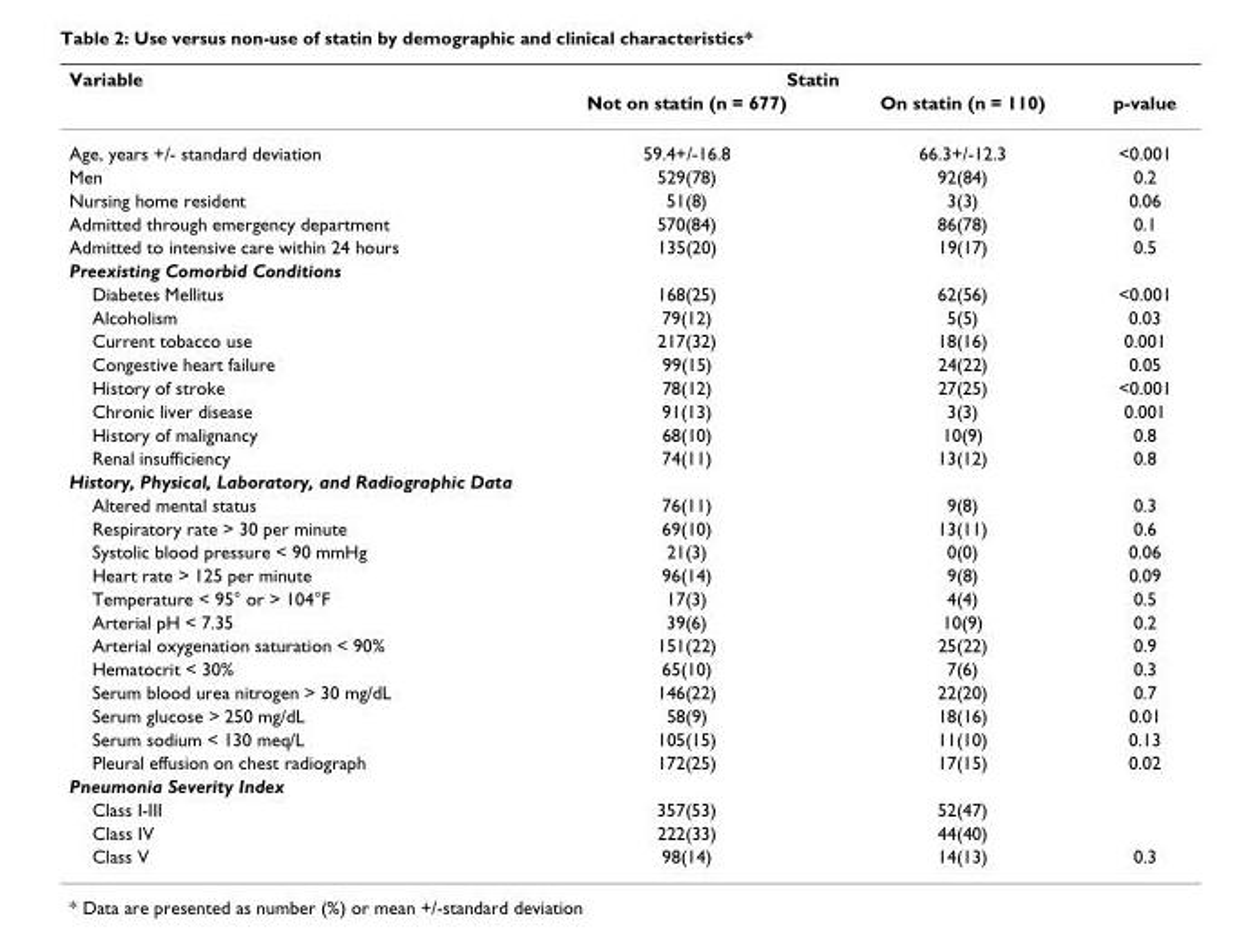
<table><thead><tr><td rowspan="2">Variable</td><td colspan="2">Statin</td><td rowspan="2">p-value</td></tr><tr><td>Not on statin (n = 677)</td><td>On statin (n = 110)</td></tr></thead><tbody><tr><td>Age, years +/- standard deviation</td><td>59.4+/-16.8</td><td>66.3+/-12.3</td><td>&lt;0.001</td></tr><tr><td>Men</td><td>529(78)</td><td>92(84)</td><td>0.2</td></tr><tr><td>Nursing home resident</td><td>51(8)</td><td>3(3)</td><td>0.06</td></tr><tr><td>Admitted through emergency department</td><td>570(84)</td><td>86(78)</td><td>0.1</td></tr><tr><td>Admitted to intensive care within 24 hours</td><td>135(20)</td><td>19(17)</td><td>0.5</td></tr><tr><td colspan="4">Preexisting Comorbid Conditions</td></tr><tr><td>Diabetes Mellitus</td><td>168(25)</td><td>62(56)</td><td>&lt;0.001</td></tr><tr><td>Alcoholism</td><td>79(12)</td><td>5(5)</td><td>0.03</td></tr><tr><td>Current tobacco use</td><td>217(32)</td><td>18(16)</td><td>0.001</td></tr><tr><td>Congestive heart failure</td><td>99(15)</td><td>24(22)</td><td>0.05</td></tr><tr><td>History of stroke</td><td>78(12)</td><td>27(25)</td><td>&lt;0.001</td></tr><tr><td>Chronic liver disease</td><td>91(13)</td><td>3(3)</td><td>0.001</td></tr><tr><td>History of malignancy</td><td>68(10)</td><td>10(9)</td><td>0.8</td></tr><tr><td>Renal insufficiency</td><td>74(11)</td><td>13(12)</td><td>0.8</td></tr><tr><td colspan="4">History, Physical, Laboratory, and Radiographic Data</td></tr><tr><td>Altered mental status</td><td>76(11)</td><td>9(8)</td><td>0.3</td></tr><tr><td>Respiratory rate &gt; 30 per minute</td><td>69(10)</td><td>13(11)</td><td>0.6</td></tr><tr><td>Systolic blood pressure &lt; 90 mmHg</td><td>21(3)</td><td>0(0)</td><td>0.06</td></tr><tr><td>Heart rate &gt; 125 per minute</td><td>96(14)</td><td>9(8)</td><td>0.09</td></tr><tr><td>Temperature &lt; 95° or &gt; 104°F</td><td>17(3)</td><td>4(4)</td><td>0.5</td></tr><tr><td>Arterial pH &lt; 7.35</td><td>39(6)</td><td>10(9)</td><td>0.2</td></tr><tr><td>Arterial oxygenation saturation &lt; 90%</td><td>151(22)</td><td>25(22)</td><td>0.9</td></tr><tr><td>Hematocrit &lt; 30%</td><td>65(10)</td><td>7(6)</td><td>0.3</td></tr><tr><td>Serum blood urea nitrogen &gt; 30 mg/dL</td><td>146(22)</td><td>22(20)</td><td>0.7</td></tr><tr><td>Serum glucose &gt; 250 mg/dL</td><td>58(9)</td><td>18(16)</td><td>0.01</td></tr><tr><td>Serum sodium &lt; 130 meq/L</td><td>105(15)</td><td>11(10)</td><td>0.13</td></tr><tr><td>Pleural effusion on chest radiograph</td><td>172(25)</td><td>17(15)</td><td>0.02</td></tr><tr><td colspan="4">Pneumonia Severity Index</td></tr><tr><td>Class I-III</td><td>357(53)</td><td>52(47)</td><td></td></tr><tr><td>Class IV</td><td>222(33)</td><td>44(40)</td><td></td></tr><tr><td>Class V</td><td>98(14)</td><td>14(13)</td><td>0.3</td></tr></tbody></table>